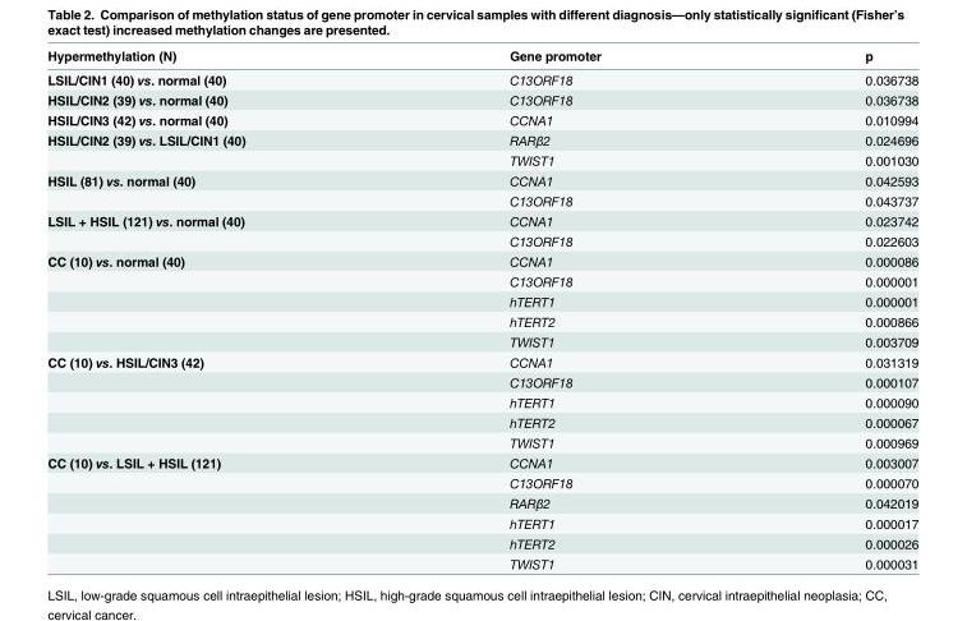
<table><thead><tr><td>Hypermethylation (N)</td><td>Gene promoter</td><td>p</td></tr></thead><tbody><tr><td>LSIL/CIN1 (40) vs. normal (40)</td><td>C13ORF18</td><td>0.036738</td></tr><tr><td>HSIL/CIN2 (39) vs. normal (40)</td><td>C13ORF18</td><td>0.036738</td></tr><tr><td>HSIL/CIN3 (42) vs. normal (40)</td><td>CCNA1</td><td>0.010994</td></tr><tr><td rowspan="2">HSIL/CIN2 (39) vs. LSIL/CIN1 (40)</td><td>RARβ2</td><td>0.024696</td></tr><tr><td>TWIST1</td><td>0.001030</td></tr><tr><td rowspan="2">HSIL (81) vs. normal (40)</td><td>CCNA1</td><td>0.042593</td></tr><tr><td>C13ORF18</td><td>0.043737</td></tr><tr><td rowspan="2">LSIL + HSIL (121) vs. normal (40)</td><td>CCNA1</td><td>0.023742</td></tr><tr><td>C13ORF18</td><td>0.022603</td></tr><tr><td rowspan="5">CC (10) vs. normal (40)</td><td>CCNA1</td><td>0.000086</td></tr><tr><td>C13ORF18</td><td>0.000001</td></tr><tr><td>hTERT1</td><td>0.000001</td></tr><tr><td>hTERT2</td><td>0.000866</td></tr><tr><td>TWIST1</td><td>0.003709</td></tr><tr><td rowspan="5">CC (10) vs. HSIL/CIN3 (42)</td><td>CCNA1</td><td>0.031319</td></tr><tr><td>C13ORF18</td><td>0.000107</td></tr><tr><td>hTERT1</td><td>0.000090</td></tr><tr><td>hTERT2</td><td>0.000067</td></tr><tr><td>TWIST1</td><td>0.000969</td></tr><tr><td rowspan="6">CC (10) vs. LSIL + HSIL (121)</td><td>CCNA1</td><td>0.003007</td></tr><tr><td>C13ORF18</td><td>0.000070</td></tr><tr><td>RARβ2</td><td>0.042019</td></tr><tr><td>hTERT1</td><td>0.000017</td></tr><tr><td>hTERT2</td><td>0.000026</td></tr><tr><td>TWIST1</td><td>0.000031</td></tr></tbody></table>